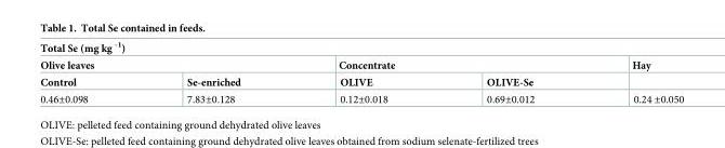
<table><thead><tr><td colspan="5">Total Se (mg kg <sup>-1</sup>)</td></tr><tr><td colspan="2">Olive leaves</td><td colspan="2">Concentrate</td><td rowspan="2">Hay</td></tr><tr><td>Control</td><td>Se-enriched</td><td>OLIVE</td><td>OLIVE-Se</td></tr></thead><tbody><tr><td>0.46±0.098</td><td>7.83±0.128</td><td>0.12±0.018</td><td>0.69±0.012</td><td>0.24 ±0.050</td></tr></tbody></table>